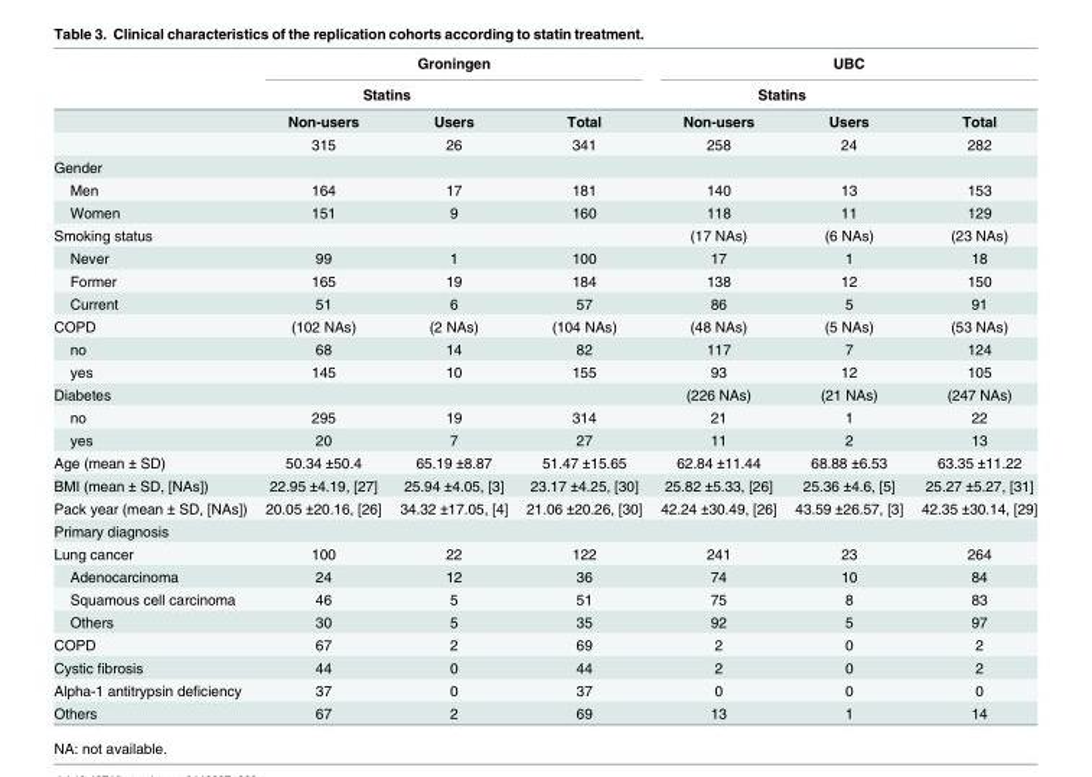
<table><thead><tr><td rowspan="3"></td><td colspan="3">Groningen</td><td colspan="3">UBC</td></tr><tr><td colspan="2">Statins</td><td rowspan="2">Total</td><td colspan="2">Statins</td><td rowspan="2">Total</td></tr><tr><td>Non-users</td><td>Users</td><td>Non-users</td><td>Users</td></tr></thead><tbody><tr><td></td><td>315</td><td>26</td><td>341</td><td>258</td><td>24</td><td>282</td></tr><tr><td colspan="7">Gender</td></tr><tr><td>Men</td><td>164</td><td>17</td><td>181</td><td>140</td><td>13</td><td>153</td></tr><tr><td>Women</td><td>151</td><td>9</td><td>160</td><td>118</td><td>11</td><td>129</td></tr><tr><td>Smoking status</td><td></td><td></td><td></td><td>(17 NAs)</td><td>(6 NAs)</td><td>(23 NAs)</td></tr><tr><td>Never</td><td>99</td><td>1</td><td>100</td><td>17</td><td>1</td><td>18</td></tr><tr><td>Former</td><td>165</td><td>19</td><td>184</td><td>138</td><td>12</td><td>150</td></tr><tr><td>Current</td><td>51</td><td>6</td><td>57</td><td>86</td><td>5</td><td>91</td></tr><tr><td>COPD</td><td>(102 NAs)</td><td>(2 NAs)</td><td>(104 NAs)</td><td>(48 NAs)</td><td>(5 NAs)</td><td>(53 NAs)</td></tr><tr><td>no</td><td>68</td><td>14</td><td>82</td><td>117</td><td>7</td><td>124</td></tr><tr><td>yes</td><td>145</td><td>10</td><td>155</td><td>93</td><td>12</td><td>105</td></tr><tr><td>Diabetes</td><td></td><td></td><td></td><td>(226 NAs)</td><td>(21 NAs)</td><td>(247 NAs)</td></tr><tr><td>no</td><td>295</td><td>19</td><td>314</td><td>21</td><td>1</td><td>22</td></tr><tr><td>yes</td><td>20</td><td>7</td><td>27</td><td>11</td><td>2</td><td>13</td></tr><tr><td>Age (mean ± SD)</td><td>50.34 ±50.4</td><td>65.19 ±8.87</td><td>51.47 ±15.65</td><td>62.84 ±11.44</td><td>68.88 ±6.53</td><td>63.35 ±11.22</td></tr><tr><td>BMI (mean ± SD, [NAs])</td><td>22.95 ±4.19, [27]</td><td>25.94 ±4.05, [3]</td><td>23.17 ±4.25, [30]</td><td>25.82 ±5.33, [26]</td><td>25.36 ±4.6, [5]</td><td>25.27 ±5.27, [31]</td></tr><tr><td>Pack year (mean ± SD, [NAs])</td><td>20.05 ±20.16, [26]</td><td>34.32 ±17.05, [4]</td><td>21.06 ±20.26, [30]</td><td>42.24 ±30.49, [26]</td><td>43.59 ±26.57, [3]</td><td>42.35 ±30.14, [29]</td></tr><tr><td colspan="7">Primary diagnosis</td></tr><tr><td>Lung cancer</td><td>100</td><td>22</td><td>122</td><td>241</td><td>23</td><td>264</td></tr><tr><td>Adenocarcinoma</td><td>24</td><td>12</td><td>36</td><td>74</td><td>10</td><td>84</td></tr><tr><td>Squamous cell carcinoma</td><td>46</td><td>5</td><td>51</td><td>75</td><td>8</td><td>83</td></tr><tr><td>Others</td><td>30</td><td>5</td><td>35</td><td>92</td><td>5</td><td>97</td></tr><tr><td>COPD</td><td>67</td><td>2</td><td>69</td><td>2</td><td>0</td><td>2</td></tr><tr><td>Cystic fibrosis</td><td>44</td><td>0</td><td>44</td><td>2</td><td>0</td><td>2</td></tr><tr><td>Alpha-1 antitrypsin deficiency</td><td>37</td><td>0</td><td>37</td><td>0</td><td>0</td><td>0</td></tr><tr><td>Others</td><td>67</td><td>2</td><td>69</td><td>13</td><td>1</td><td>14</td></tr></tbody></table>